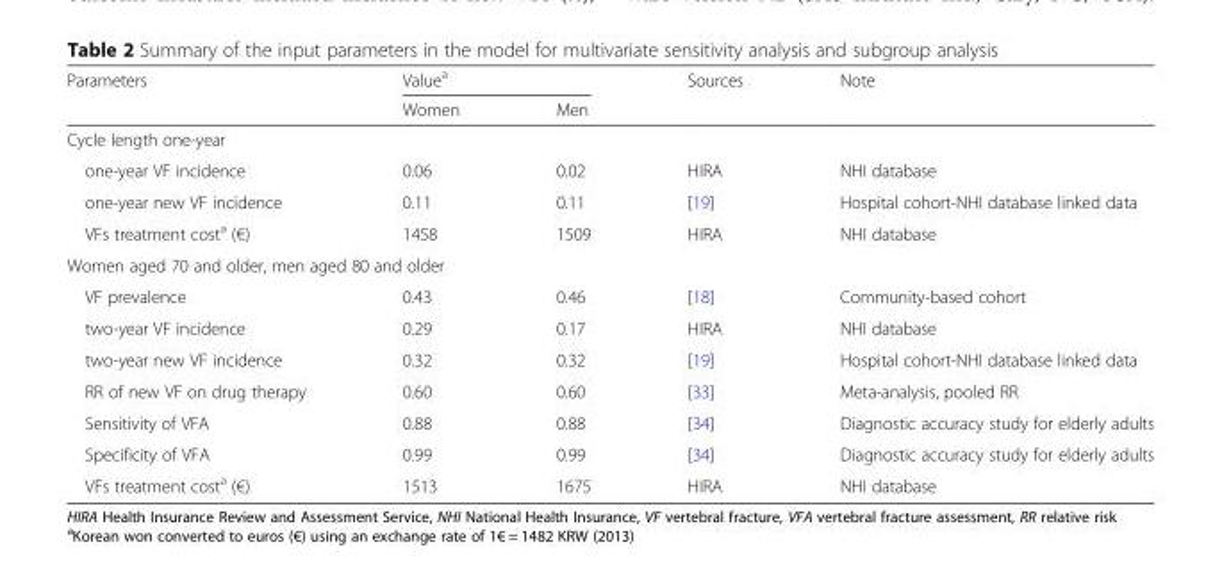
<table><thead><tr><td rowspan="2">Parameters</td><td colspan="2">Value<sup>a</sup></td><td rowspan="2">Sources</td><td rowspan="2">Note</td></tr><tr><td>Women</td><td>Men</td></tr></thead><tbody><tr><td colspan="5">Cycle length one-year</td></tr><tr><td>one-year VF incidence</td><td>0.06</td><td>0.02</td><td>HIRA</td><td>NHI database</td></tr><tr><td>one-year new VF incidence</td><td>0.11</td><td>0.11</td><td>[19]</td><td>Hospital cohort-NHI database linked data</td></tr><tr><td>VFs treatment cost<sup>a</sup> (€)</td><td>1458</td><td>1509</td><td>HIRA</td><td>NHI database</td></tr><tr><td colspan="5">Women aged 70 and older, men aged 80 and older</td></tr><tr><td>VF prevalence</td><td>0.43</td><td>0.46</td><td>[18]</td><td>Community-based cohort</td></tr><tr><td>two-year VF incidence</td><td>0.29</td><td>0.17</td><td>HIRA</td><td>NHI database</td></tr><tr><td>two-year new VF incidence</td><td>0.32</td><td>0.32</td><td>[19]</td><td>Hospital cohort-NHI database linked data</td></tr><tr><td>RR of new VF on drug therapy</td><td>0.60</td><td>0.60</td><td>[33]</td><td>Meta-analysis, pooled RR</td></tr><tr><td>Sensitivity of VFA</td><td>0.88</td><td>0.88</td><td>[34]</td><td>Diagnostic accuracy study for elderly adults</td></tr><tr><td>Specificity of VFA</td><td>0.99</td><td>0.99</td><td>[34]</td><td>Diagnostic accuracy study for elderly adults</td></tr><tr><td>VFs treatment cost<sup>a</sup> (€)</td><td>1513</td><td>1675</td><td>HIRA</td><td>NHI database</td></tr></tbody></table>